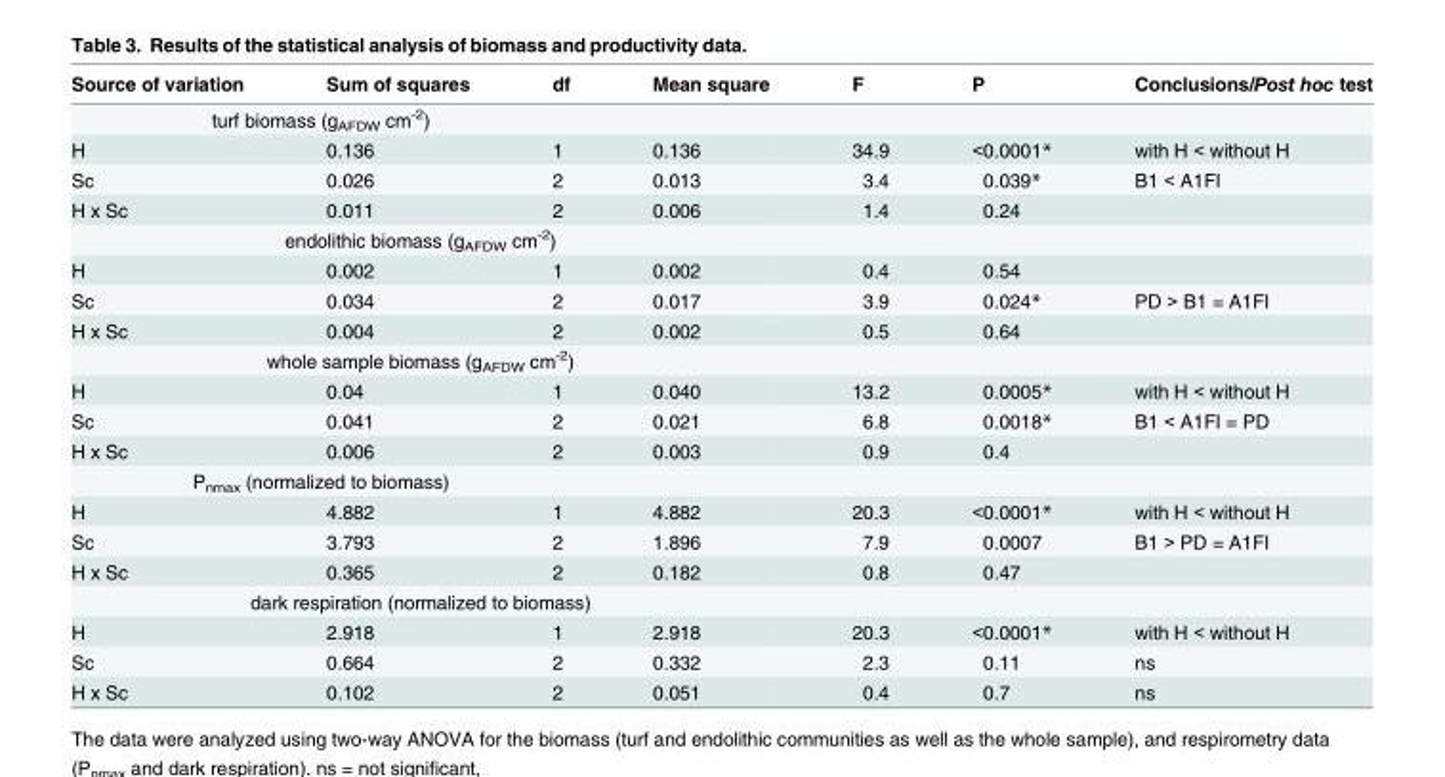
<table><thead><tr><td>Source of variation</td><td>Sum of squares</td><td>df</td><td>Mean square</td><td>F</td><td>P</td><td>Conclusions/Post hoc test</td></tr></thead><tbody><tr><td colspan="7">turf biomass (g<sub>AFDW</sub> cm<sup>-2</sup>)</td></tr><tr><td>H</td><td>0.136</td><td>1</td><td>0.136</td><td>34.9</td><td>&lt;0.0001*</td><td>with H &lt; without H</td></tr><tr><td>Sc</td><td>0.026</td><td>2</td><td>0.013</td><td>3.4</td><td>0.039*</td><td>B1 &lt; A1FI</td></tr><tr><td>H x Sc</td><td>0.011</td><td>2</td><td>0.006</td><td>1.4</td><td>0.24</td><td></td></tr><tr><td colspan="7">endolithic biomass (g<sub>AFDW</sub> cm<sup>-2</sup>)</td></tr><tr><td>H</td><td>0.002</td><td>1</td><td>0.002</td><td>0.4</td><td>0.54</td><td></td></tr><tr><td>Sc</td><td>0.034</td><td>2</td><td>0.017</td><td>3.9</td><td>0.024*</td><td>PD &gt; B1 = A1FI</td></tr><tr><td>H x Sc</td><td>0.004</td><td>2</td><td>0.002</td><td>0.5</td><td>0.64</td><td></td></tr><tr><td colspan="7">whole sample biomass (g<sub>AFDW</sub> cm<sup>-2</sup>)</td></tr><tr><td>H</td><td>0.04</td><td>1</td><td>0.040</td><td>13.2</td><td>0.0005*</td><td>with H &lt; without H</td></tr><tr><td>Sc</td><td>0.041</td><td>2</td><td>0.021</td><td>6.8</td><td>0.0018*</td><td>B1 &lt; A1FI = PD</td></tr><tr><td>H x Sc</td><td>0.006</td><td>2</td><td>0.003</td><td>0.9</td><td>0.4</td><td></td></tr><tr><td colspan="7">P<sub>nmax</sub> (normalized to biomass)</td></tr><tr><td>H</td><td>4.882</td><td>1</td><td>4.882</td><td>20.3</td><td>&lt;0.0001*</td><td>with H &lt; without H</td></tr><tr><td>Sc</td><td>3.793</td><td>2</td><td>1.896</td><td>7.9</td><td>0.0007</td><td>B1 &gt; PD = A1FI</td></tr><tr><td>H x Sc</td><td>0.365</td><td>2</td><td>0.182</td><td>0.8</td><td>0.47</td><td></td></tr><tr><td colspan="7">dark respiration (normalized to biomass)</td></tr><tr><td>H</td><td>2.918</td><td>1</td><td>2.918</td><td>20.3</td><td>&lt;0.0001*</td><td>with H &lt; without H</td></tr><tr><td>Sc</td><td>0.664</td><td>2</td><td>0.332</td><td>2.3</td><td>0.11</td><td>ns</td></tr><tr><td>H x Sc</td><td>0.102</td><td>2</td><td>0.051</td><td>0.4</td><td>0.7</td><td>ns</td></tr></tbody></table>